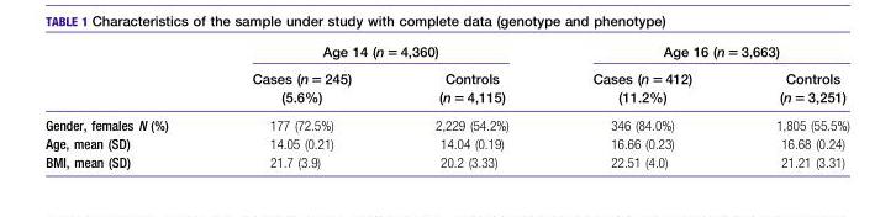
<table><thead><tr><td rowspan="2"></td><td colspan="2">Age 14 (n = 4,360)</td><td colspan="2">Age 16 (n = 3,663)</td></tr><tr><td>Cases (n = 245) (5.6%)</td><td>Controls (n = 4,115)</td><td>Cases (n = 412) (11.2%)</td><td>Controls (n = 3,251)</td></tr></thead><tbody><tr><td>Gender, females N (%)</td><td>177 (72.5%)</td><td>2,229 (54.2%)</td><td>346 (84.0%)</td><td>1,805 (55.5%)</td></tr><tr><td>Age, mean (SD)</td><td>14.05 (0.21)</td><td>14.04 (0.19)</td><td>16.66 (0.23)</td><td>16.68 (0.24)</td></tr><tr><td>BMI, mean (SD)</td><td>21.7 (3.9)</td><td>20.2 (3.33)</td><td>22.51 (4.0)</td><td>21.21 (3.31)</td></tr></tbody></table>